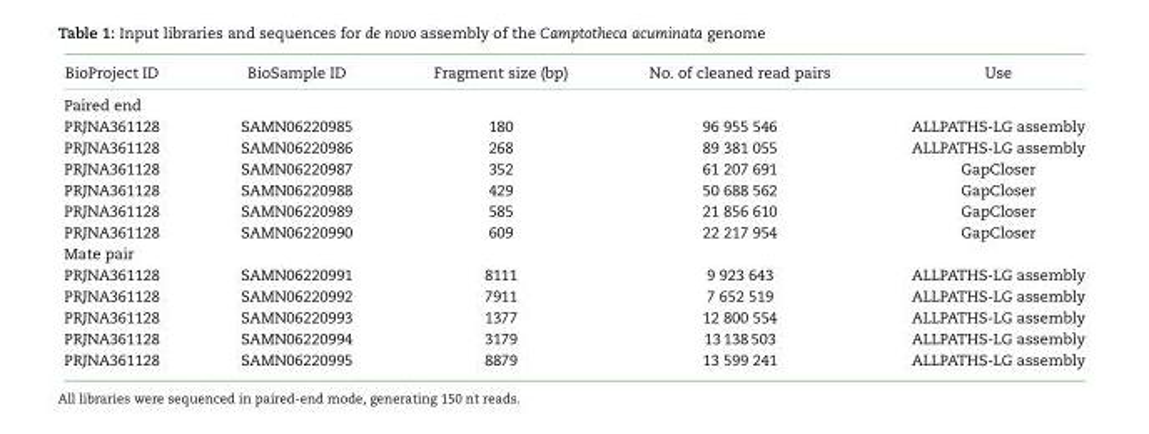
<table><tbody><tr><td>BioProject ID</td><td>BioSample ID</td><td>Fragment size (bp)</td><td>No. of cleaned read pairs</td><td>Use</td></tr><tr><td colspan="5">Paired end</td></tr><tr><td>PRJNA361128</td><td>SAMN06220985</td><td>180</td><td>96 955 546</td><td>ALLPATHS-LG assembly</td></tr><tr><td>PRJNA361128</td><td>SAMN06220986</td><td>268</td><td>89 381 055</td><td>ALLPATHS-LG assembly</td></tr><tr><td>PRJNA361128</td><td>SAMN06220987</td><td>352</td><td>61 207 691</td><td>GapCloser</td></tr><tr><td>PRJNA361128</td><td>SAMN06220988</td><td>429</td><td>50 688 562</td><td>GapCloser</td></tr><tr><td>PRJNA361128</td><td>SAMN06220989</td><td>585</td><td>21 856 610</td><td>GapCloser</td></tr><tr><td>PRJNA361128</td><td>SAMN06220990</td><td>609</td><td>22 217 954</td><td>GapCloser</td></tr><tr><td colspan="5">Mate pair</td></tr><tr><td>PRJNA361128</td><td>SAMN06220991</td><td>8111</td><td>9 923 643</td><td>ALLPATHS-LG assembly</td></tr><tr><td>PRJNA361128</td><td>SAMN06220992</td><td>7911</td><td>7 652 519</td><td>ALLPATHS-LG assembly</td></tr><tr><td>PRJNA361128</td><td>SAMN06220993</td><td>1377</td><td>12 800 554</td><td>ALLPATHS-LG assembly</td></tr><tr><td>PRJNA361128</td><td>SAMN06220994</td><td>3179</td><td>13 138 503</td><td>ALLPATHS-LG assembly</td></tr><tr><td>PRJNA361128</td><td>SAMN06220995</td><td>8879</td><td>13 599 241</td><td>ALLPATHS-LG assembly</td></tr></tbody></table>